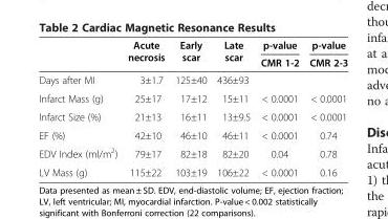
<table><thead><tr><td rowspan="2"></td><td rowspan="2">Acute necrosis</td><td rowspan="2">Early scar</td><td rowspan="2">Late scar</td><td rowspan="2">p-value CMR 1-2</td><td rowspan="2">p-value CMR 2-3</td></tr><tr></tr></thead><tbody><tr><td>Days after MI</td><td>3±1.7</td><td>125±40</td><td>436±93</td><td></td><td></td></tr><tr><td>Infarct Mass (g)</td><td>25±17</td><td>17±12</td><td>15±11</td><td>&lt; 0.0001</td><td>&lt; 0.0001</td></tr><tr><td>Infarct Size (%)</td><td>21±13</td><td>16±11</td><td>13±9.5</td><td>&lt; 0.0001</td><td>&lt; 0.0001</td></tr><tr><td>EF (%)</td><td>42±10</td><td>46±10</td><td>46±11</td><td>&lt; 0.0001</td><td>0.74</td></tr><tr><td>EDV Index (ml/m<sup>2</sup>)</td><td>79±17</td><td>82±18</td><td>82±20</td><td>0.04</td><td>0.78</td></tr><tr><td>LV Mass (g)</td><td>115±22</td><td>103±19</td><td>106±22</td><td>&lt; 0.0001</td><td>0.16</td></tr></tbody></table>